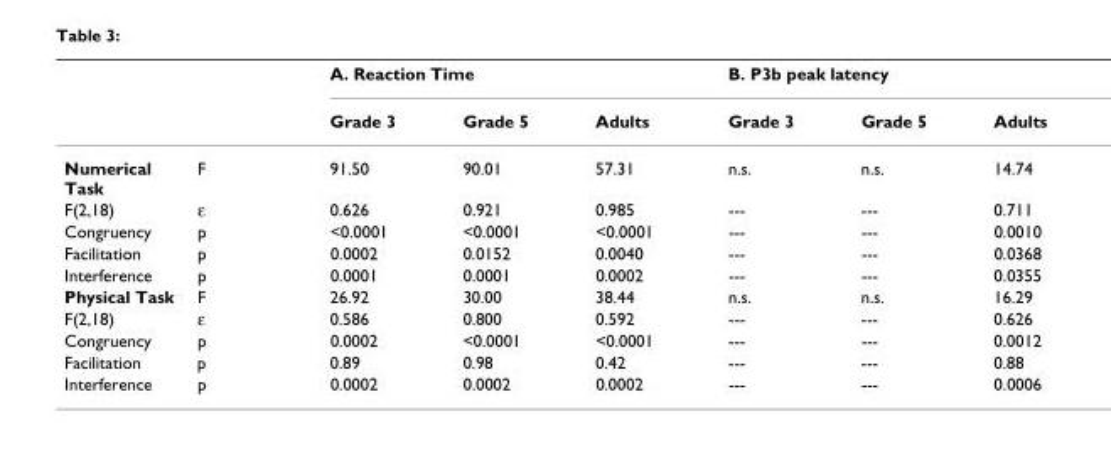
<table><thead><tr><td rowspan="2"></td><td rowspan="2"></td><td colspan="3">A. Reaction Time</td><td colspan="3">B. P3b peak latency</td></tr><tr><td>Grade 3</td><td>Grade 5</td><td>Adults</td><td>Grade 3</td><td>Grade 5</td><td>Adults</td></tr></thead><tbody><tr><td>Numerical Task</td><td>F</td><td>91.50</td><td>90.01</td><td>57.31</td><td>n.s.</td><td>n.s.</td><td>14.74</td></tr><tr><td>F(2,18)</td><td>ε</td><td>0.626</td><td>0.921</td><td>0.985</td><td>---</td><td>---</td><td>0.711</td></tr><tr><td>Congruency</td><td>p</td><td>&lt;0.0001</td><td>&lt;0.0001</td><td>&lt;0.0001</td><td>---</td><td>---</td><td>0.0010</td></tr><tr><td>Facilitation</td><td>p</td><td>0.0002</td><td>0.0152</td><td>0.0040</td><td>---</td><td>---</td><td>0.0368</td></tr><tr><td>Interference</td><td>p</td><td>0.0001</td><td>0.0001</td><td>0.0002</td><td>---</td><td>---</td><td>0.0355</td></tr><tr><td>Physical Task</td><td>F</td><td>26.92</td><td>30.00</td><td>38.44</td><td>n.s.</td><td>n.s.</td><td>16.29</td></tr><tr><td>F(2,18)</td><td>ε</td><td>0.586</td><td>0.800</td><td>0.592</td><td>---</td><td>---</td><td>0.626</td></tr><tr><td>Congruency</td><td>p</td><td>0.0002</td><td>&lt;0.0001</td><td>&lt;0.0001</td><td>---</td><td>---</td><td>0.0012</td></tr><tr><td>Facilitation</td><td>p</td><td>0.89</td><td>0.98</td><td>0.42</td><td>---</td><td>---</td><td>0.88</td></tr><tr><td>Interference</td><td>p</td><td>0.0002</td><td>0.0002</td><td>0.0002</td><td>---</td><td>---</td><td>0.0006</td></tr></tbody></table>